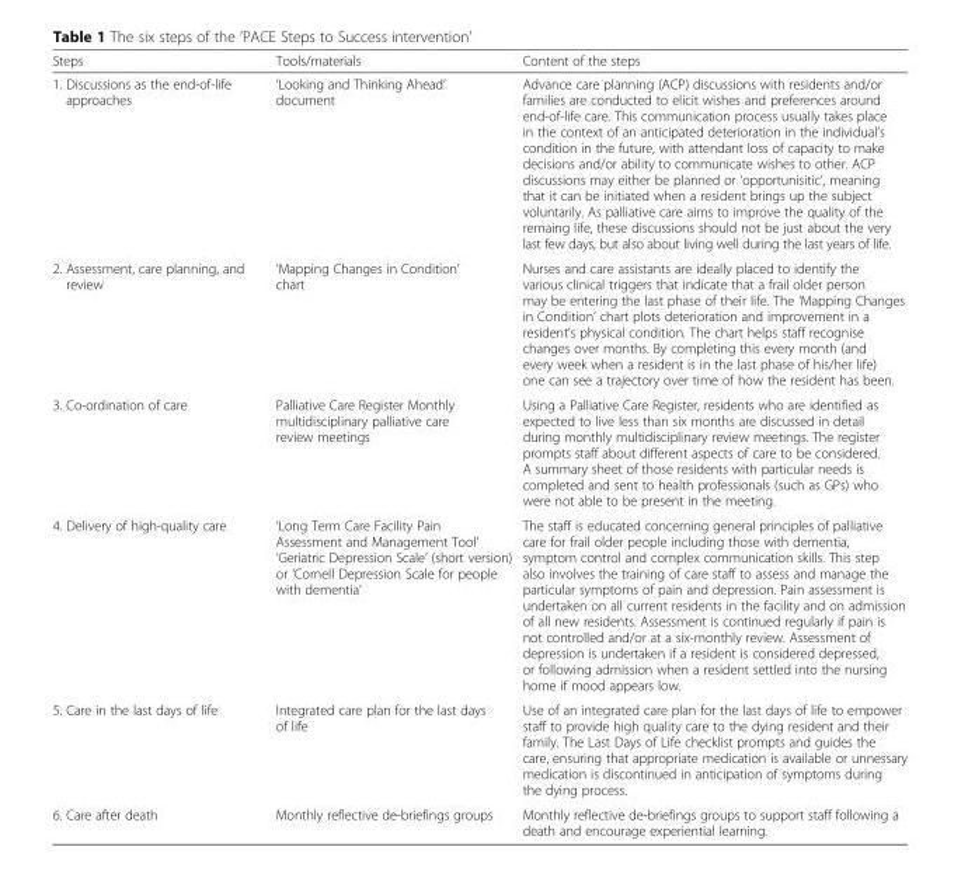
<table><thead><tr><td>Steps</td><td>Tools/materials</td><td>Content of the steps</td></tr></thead><tbody><tr><td>1. Discussions as the end-of-life approaches</td><td>‘Looking and Thinking Ahead’ document</td><td>Advance care planning (ACP) discussions with residents and/or families are conducted to elicit wishes and preferences around end-of-life care. This communication process usually takes place in the context of an anticipated deterioration in the individual’s condition in the future, with attendant loss of capacity to make decisions and/or ability to communicate wishes to other. ACP discussions may either be planned or ‘opportunisitic’, meaning that it can be initiated when a resident brings up the subject voluntarily. As palliative care aims to improve the quality of the remaing life, these discussions should not be just about the very last few days, but also about living well during the last years of life.</td></tr><tr><td>2. Assessment, care planning, and review</td><td>‘Mapping Changes in Condition’ chart</td><td>Nurses and care assistants are ideally placed to identify the various clinical triggers that indicate that a frail older person may be entering the last phase of their life. The ‘Mapping Changes in Condition’ chart plots deterioration and improvement in a resident’s physical condition. The chart helps staff recognise changes over months. By completing this every month (and every week when a resident is in the last phase of his/her life) one can see a trajectory over time of how the resident has been.</td></tr><tr><td>3. Co-ordination of care</td><td>Palliative Care Register Monthly multidisciplinary palliative care review meetings</td><td>Using a Palliative Care Register, residents who are identified as expected to live less than six months are discussed in detail during monthly multidisciplinary review meetings. The register prompts staff about different aspects of care to be considered. A summary sheet of those residents with particular needs is completed and sent to health professionals (such as GPs) who were not able to be present in the meeting.</td></tr><tr><td>4. Delivery of high-quality care</td><td>‘Long Term Care Facility Pain Assessment and Management Tool’ ‘Geriatric Depression Scale’ (short version) or ‘Cornell Depression Scale for people with dementia’</td><td>The staff is educated concerning general principles of palliative care for frail older people including those with dementia, symptom control and complex communication skills. This step also involves the training of care staff to assess and manage the particular symptoms of pain and depression. Pain assessment is undertaken on all current residents in the facility and on admission of all new residents. Assessment is continued regularly if pain is not controlled and/or at a six-monthly review. Assessment of depression is undertaken if a resident is considered depressed, or following admission when a resident settled into the nursing home if mood appears low.</td></tr><tr><td>5. Care in the last days of life</td><td>Integrated care plan for the last days of life</td><td>Use of an integrated care plan for the last days of life to empower staff to provide high quality care to the dying resident and their family. The Last Days of Life checklist prompts and guides the care, ensuring that appropriate medication is available or unnessary medication is discontinued in anticipation of symptoms during the dying process.</td></tr><tr><td>6. Care after death</td><td>Monthly reflective de-briefings groups</td><td>Monthly reflective de-briefings groups to support staff following a death and encourage experiential learning.</td></tr></tbody></table>